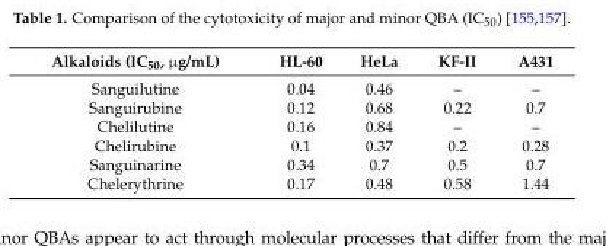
<table><thead><tr><td>Alkaloids (IC<sub>50</sub>, µg/mL)</td><td>HL-60</td><td>HeLa</td><td>KF-II</td><td>A431</td></tr></thead><tbody><tr><td>Sanguilutine</td><td>0.04</td><td>0.46</td><td>–</td><td>–</td></tr><tr><td>Sanguirubine</td><td>0.12</td><td>0.68</td><td>0.22</td><td>0.7</td></tr><tr><td>Chelilutine</td><td>0.16</td><td>0.84</td><td>–</td><td>–</td></tr><tr><td>Chelirubine</td><td>0.1</td><td>0.37</td><td>0.2</td><td>0.28</td></tr><tr><td>Sanguinarine</td><td>0.34</td><td>0.7</td><td>0.5</td><td>0.7</td></tr><tr><td>Chelerythrine</td><td>0.17</td><td>0.48</td><td>0.58</td><td>1.44</td></tr></tbody></table>